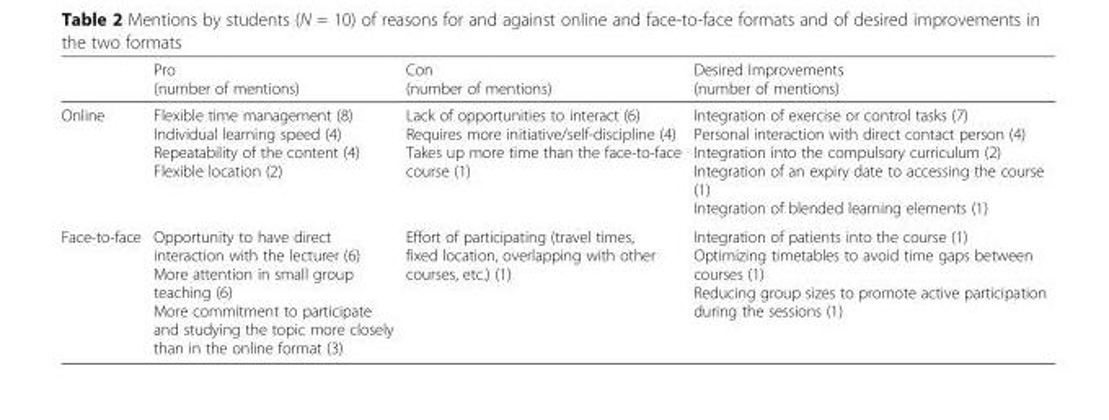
<table><thead><tr><td></td><td>Pro (number of mentions)</td><td>Con (number of mentions)</td><td>Desired Improvements (number of mentions)</td></tr></thead><tbody><tr><td>Online</td><td>Flexible time management (8) Individual learning speed (4) Repeatability of the content (4) Flexible location (2)</td><td>Lack of opportunities to interact (6) Requires more initiative/self-discipline (4) Takes up more time than the face-to-face course (1)</td><td>Integration of exercise or control tasks (7) Personal interaction with direct contact person (4) Integration into the compulsory curriculum (2) Integration of an expiry date to accessing the course (1) Integration of blended learning elements (1)</td></tr><tr><td>Face-to-face</td><td>Opportunity to have direct interaction with the lecturer (6) More attention in small group teaching (6) More commitment to participate and studying the topic more closely than in the online format (3)</td><td>Effort of participating (travel times, fixed location, overlapping with other courses, etc.) (1)</td><td>Integration of patients into the course (1) Optimizing timetables to avoid time gaps between courses (1) Reducing group sizes to promote active participation during the sessions (1)</td></tr></tbody></table>